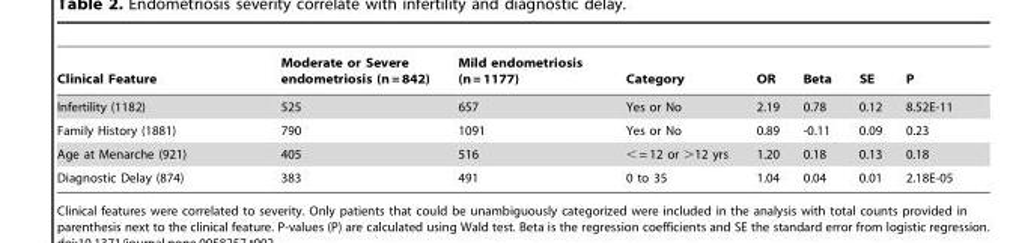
<table><thead><tr><td>Clinical Feature</td><td>Moderate or Severe endometriosis (n = 842)</td><td>Mild endometriosis (n = 1177)</td><td>Category</td><td>OR</td><td>Beta</td><td>SE</td><td>P</td></tr></thead><tbody><tr><td>Infertility (1182)</td><td>525</td><td>657</td><td>Yes or No</td><td>2.19</td><td>0.78</td><td>0.12</td><td>8.52E-11</td></tr><tr><td>Family History (1881)</td><td>790</td><td>1091</td><td>Yes or No</td><td>0.89</td><td>-0.11</td><td>0.09</td><td>0.23</td></tr><tr><td>Age at Menarche (921)</td><td>405</td><td>516</td><td>&lt; = 12 or &gt;12 yrs</td><td>1.20</td><td>0.18</td><td>0.13</td><td>0.18</td></tr><tr><td>Diagnostic Delay (874)</td><td>383</td><td>491</td><td>0 to 35</td><td>1.04</td><td>0.04</td><td>0.01</td><td>2.18E-05</td></tr></tbody></table>